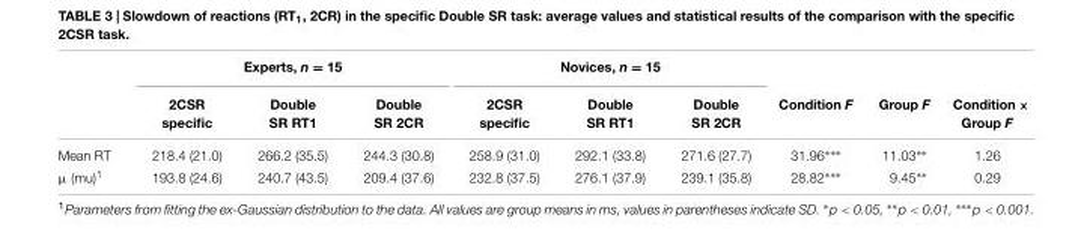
<table><thead><tr><td rowspan="2"></td><td colspan="3">Experts, n = 15</td><td colspan="3">Novices, n = 15</td><td rowspan="2">Condition F</td><td rowspan="2">Group F</td><td rowspan="2">Condition × Group F</td></tr><tr><td>2CSR specific</td><td>Double SR RT1</td><td>Double SR 2CR</td><td>2CSR specific</td><td>Double SR RT1</td><td>Double SR 2CR</td></tr></thead><tbody><tr><td>Mean RT</td><td>218.4 (21.0)</td><td>266.2 (35.5)</td><td>244.3 (30.8)</td><td>258.9 (31.0)</td><td>292.1 (33.8)</td><td>271.6 (27.7)</td><td>31.96∗∗∗</td><td>11.03∗∗</td><td>1.26</td></tr><tr><td>µ (mu)<sup>1</sup></td><td>193.8 (24.6)</td><td>240.7 (43.5)</td><td>209.4 (37.6)</td><td>232.8 (37.5)</td><td>276.1 (37.9)</td><td>239.1 (35.8)</td><td>28.82∗∗∗</td><td>9.45∗∗</td><td>0.29</td></tr></tbody></table>